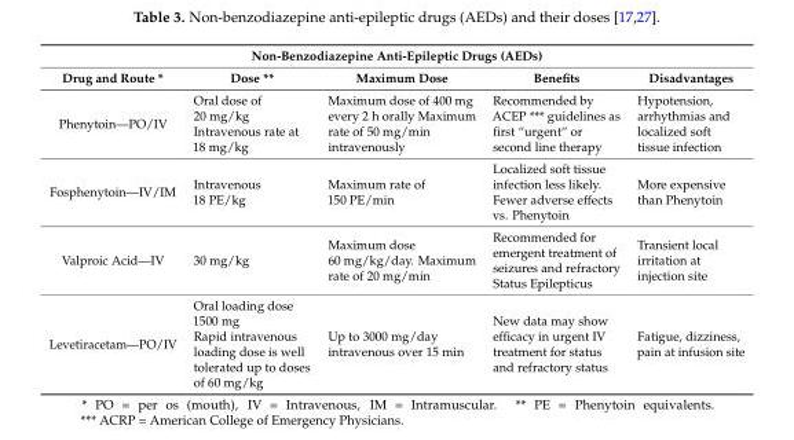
<table><thead><tr><td colspan="5">Non-Benzodiazepine Anti-Epileptic Drugs (AEDs)</td></tr><tr><td>Drug and Route *</td><td>Dose **</td><td>Maximum Dose</td><td>Benefits</td><td>Disadvantages</td></tr></thead><tbody><tr><td>Phenytoin—PO/IV</td><td>Oral dose of 20 mg/kg Intravenous rate at 18 mg/kg</td><td>Maximum dose of 400 mg every 2 h orally Maximum rate of 50 mg/min intravenously</td><td>Recommended by ACEP *** guidelines as first “urgent“ or second line therapy</td><td>Hypotension, arrhythmias and localized soft tissue infection</td></tr><tr><td>Fosphenytoin—IV/IM</td><td>Intravenous 18 PE/kg</td><td>Maximum rate of 150 PE/min</td><td>Localized soft tissue infection less likely. Fewer adverse effects vs. Phenytoin</td><td>More expensive than Phenytoin</td></tr><tr><td>Valproic Acid—IV</td><td>30 mg/kg</td><td>Maximum dose 60 mg/kg/day. Maximum rate of 20 mg/min</td><td>Recommended for emergent treatment of seizures and refractory Status Epilepticus</td><td>Transient local irritation at injection site</td></tr><tr><td>Levetiracetam—PO/IV</td><td>Oral loading dose 1500 mg Rapid intravenous loading dose is well tolerated up to doses of 60 mg/kg</td><td>Up to 3000 mg/day intravenous over 15 min</td><td>New data may show efficacy in urgent IV treatment for status and refractory status</td><td>Fatigue, dizziness, pain at infusion site</td></tr></tbody></table>